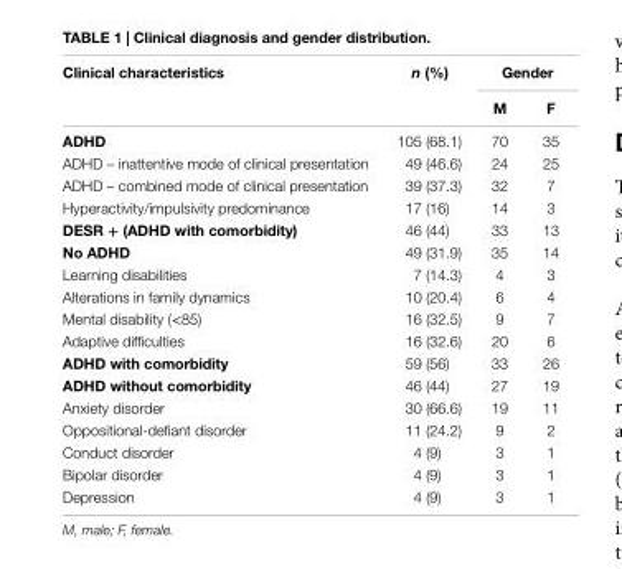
<table><thead><tr><td rowspan="2">clinical characteristics</td><td rowspan="2">n (%)</td><td colspan="2">gender</td></tr><tr><td>M</td><td>F</td></tr></thead><tbody><tr><td>aDhD</td><td>105 (68.1)</td><td>70</td><td>35</td></tr><tr><td>ADHD – inattentive mode of clinical presentation</td><td>49 (46.6)</td><td>24</td><td>25</td></tr><tr><td>ADHD – combined mode of clinical presentation</td><td>39 (37.3)</td><td>32</td><td>7</td></tr><tr><td>Hyperactivity/impulsivity predominance</td><td>17 (16)</td><td>14</td><td>3</td></tr><tr><td>Desr + (aDhD with comorbidity)</td><td>46 (44)</td><td>33</td><td>13</td></tr><tr><td>no aDhD</td><td>49 (31.9)</td><td>35</td><td>14</td></tr><tr><td>Learning disabilities</td><td>7 (14.3)</td><td>4</td><td>3</td></tr><tr><td>Alterations in family dynamics</td><td>10 (20.4)</td><td>6</td><td>4</td></tr><tr><td>Mental disability (&lt;85)</td><td>16 (32.5)</td><td>9</td><td>7</td></tr><tr><td>Adaptive difficulties</td><td>16 (32.6)</td><td>20</td><td>6</td></tr><tr><td>aDhD with comorbidity</td><td>59 (56)</td><td>33</td><td>26</td></tr><tr><td>aDhD without comorbidity</td><td>46 (44)</td><td>27</td><td>19</td></tr><tr><td>Anxiety disorder</td><td>30 (66.6)</td><td>19</td><td>11</td></tr><tr><td>Oppositional-defiant disorder</td><td>11 (24.2)</td><td>9</td><td>2</td></tr><tr><td>Conduct disorder</td><td>4 (9)</td><td>3</td><td>1</td></tr><tr><td>Bipolar disorder</td><td>4 (9)</td><td>3</td><td>1</td></tr><tr><td>Depression</td><td>4 (9)</td><td>3</td><td>1</td></tr></tbody></table>